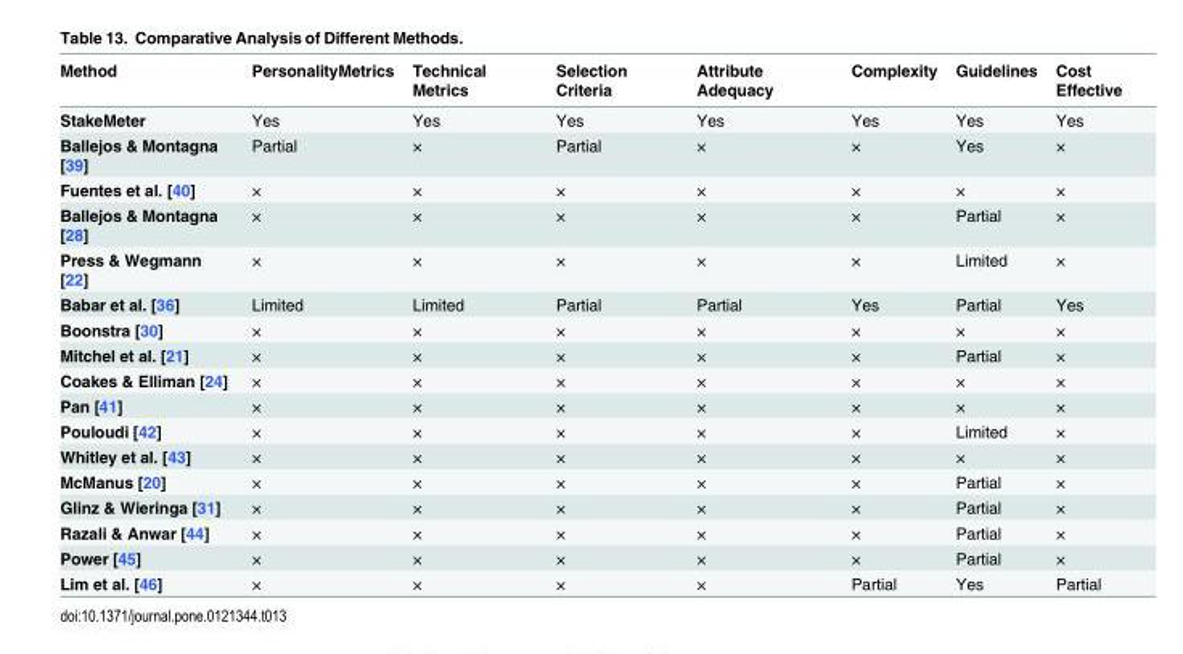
<table><thead><tr><td>Method</td><td>PersonalityMetrics</td><td>Technical Metrics</td><td>Selection Criteria</td><td>Attribute Adequacy</td><td>Complexity</td><td>Guidelines</td><td>Cost Effective</td></tr></thead><tbody><tr><td>StakeMeter</td><td>Yes</td><td>Yes</td><td>Yes</td><td>Yes</td><td>Yes</td><td>Yes</td><td>Yes</td></tr><tr><td>Ballejos &amp; Montagna [39]</td><td>Partial</td><td>×</td><td>Partial</td><td>×</td><td>×</td><td>Yes</td><td>×</td></tr><tr><td>Fuentes et al. [40]</td><td>×</td><td>×</td><td>×</td><td>×</td><td>×</td><td>×</td><td>×</td></tr><tr><td>Ballejos &amp; Montagna [28]</td><td>×</td><td>×</td><td>×</td><td>×</td><td>×</td><td>Partial</td><td>×</td></tr><tr><td>Press &amp; Wegmann [22]</td><td>×</td><td>×</td><td>×</td><td>×</td><td>×</td><td>Limited</td><td>×</td></tr><tr><td>Babar et al. [36]</td><td>Limited</td><td>Limited</td><td>Partial</td><td>Partial</td><td>Yes</td><td>Partial</td><td>Yes</td></tr><tr><td>Boonstra [30]</td><td>×</td><td>×</td><td>×</td><td>×</td><td>×</td><td>×</td><td>×</td></tr><tr><td>Mitchel et al. [21]</td><td>×</td><td>×</td><td>×</td><td>×</td><td>×</td><td>Partial</td><td>×</td></tr><tr><td>Coakes &amp; Elliman [24]</td><td>×</td><td>×</td><td>×</td><td>×</td><td>×</td><td>×</td><td>×</td></tr><tr><td>Pan [41]</td><td>×</td><td>×</td><td>×</td><td>×</td><td>×</td><td>×</td><td>×</td></tr><tr><td>Pouloudi [42]</td><td>×</td><td>×</td><td>×</td><td>×</td><td>×</td><td>Limited</td><td>×</td></tr><tr><td>Whitley et al. [43]</td><td>×</td><td>×</td><td>×</td><td>×</td><td>×</td><td>×</td><td>×</td></tr><tr><td>McManus [20]</td><td>×</td><td>×</td><td>×</td><td>×</td><td>×</td><td>Partial</td><td>×</td></tr><tr><td>Glinz &amp; Wieringa [31]</td><td>×</td><td>×</td><td>×</td><td>×</td><td>×</td><td>Partial</td><td>×</td></tr><tr><td>Razali &amp; Anwar [44]</td><td>×</td><td>×</td><td>×</td><td>×</td><td>×</td><td>Partial</td><td>×</td></tr><tr><td>Power [45]</td><td>×</td><td>×</td><td>×</td><td>×</td><td>×</td><td>Partial</td><td>×</td></tr><tr><td>Lim et al. [46]</td><td>×</td><td>×</td><td>×</td><td>×</td><td>Partial</td><td>Yes</td><td>Partial</td></tr></tbody></table>